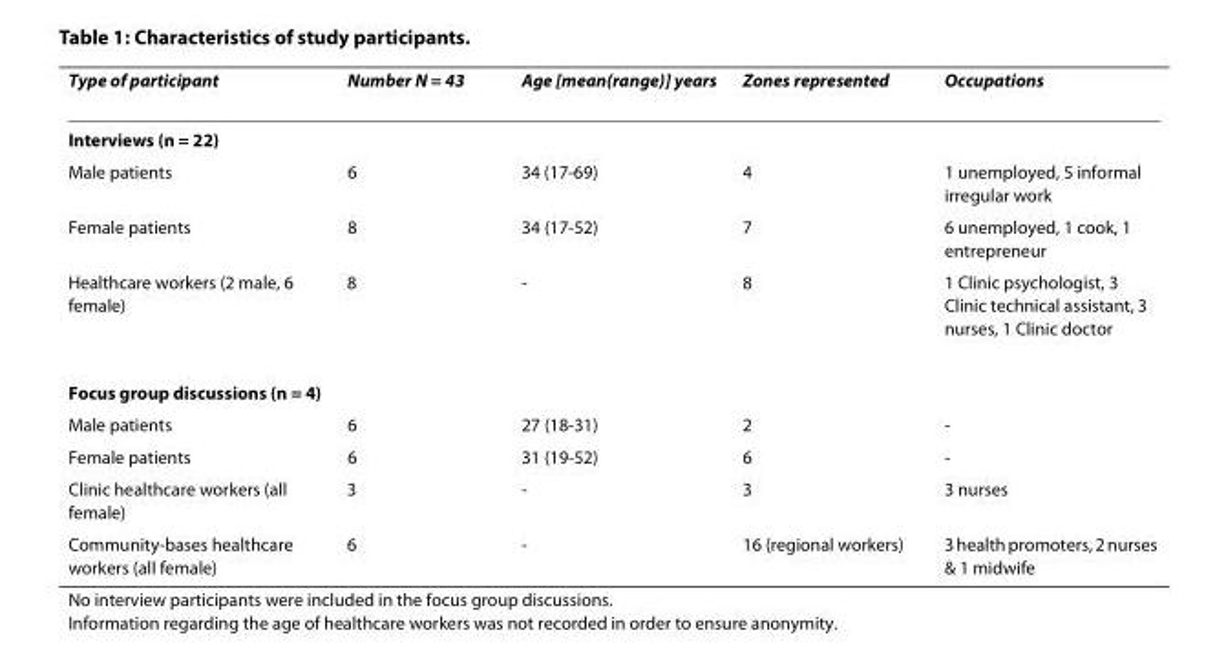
<table><thead><tr><td>Type of participant</td><td>Number N = 43</td><td>Age [mean(range)] years</td><td>Zones represented</td><td>Occupations</td></tr></thead><tbody><tr><td colspan="5">Interviews (n = 22)</td></tr><tr><td>Male patients</td><td>6</td><td>34 (17-69)</td><td>4</td><td>1 unemployed, 5 informal irregular work</td></tr><tr><td>Female patients</td><td>8</td><td>34 (17-52)</td><td>7</td><td>6 unemployed, 1 cook, 1 entrepreneur</td></tr><tr><td>Healthcare workers (2 male, 6 female)</td><td>8</td><td>-</td><td>8</td><td>1 Clinic psychologist, 3 Clinic technical assistant, 3 nurses, 1 Clinic doctor</td></tr><tr><td colspan="5">Focus group discussions (n = 4)</td></tr><tr><td>Male patients</td><td>6</td><td>27 (18-31)</td><td>2</td><td>-</td></tr><tr><td>Female patients</td><td>6</td><td>31 (19-52)</td><td>6</td><td>-</td></tr><tr><td>Clinic healthcare workers (all female)</td><td>3</td><td>-</td><td>3</td><td>3 nurses</td></tr><tr><td>Community-bases healthcare workers (all female)</td><td>6</td><td>-</td><td>16 (regional workers)</td><td>3 health promoters, 2 nurses &amp; 1 midwife</td></tr></tbody></table>